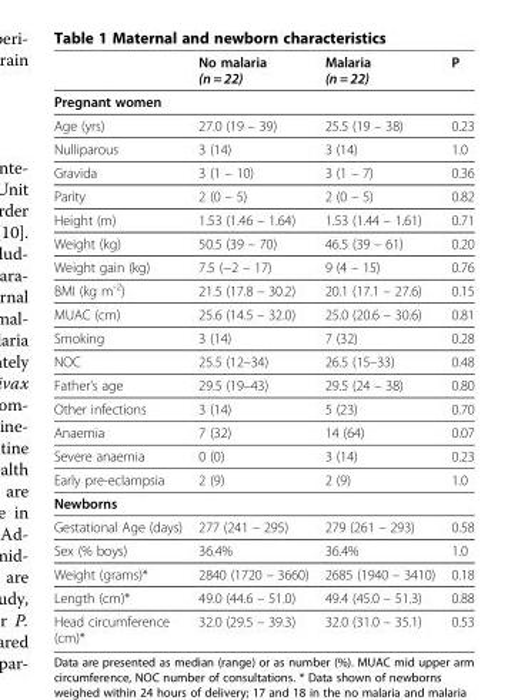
<table><thead><tr><td></td><td>No malaria (n = 22)</td><td>Malaria (n = 22)</td><td>P</td></tr></thead><tbody><tr><td colspan="4">Pregnant women</td></tr><tr><td>Age (yrs)</td><td>27.0 (19 – 39)</td><td>25.5 (19 – 38)</td><td>0.23</td></tr><tr><td>Nulliparous</td><td>3 (14)</td><td>3 (14)</td><td>1.0</td></tr><tr><td>Gravida</td><td>3 (1 – 10)</td><td>3 (1 – 7)</td><td>0.36</td></tr><tr><td>Parity</td><td>2 (0 – 5)</td><td>2 (0 – 5)</td><td>0.82</td></tr><tr><td>Height (m)</td><td>1.53 (1.46 – 1.64)</td><td>1.53 (1.44 – 1.61)</td><td>0.71</td></tr><tr><td>Weight (kg)</td><td>50.5 (39 – 70)</td><td>46.5 (39 – 61)</td><td>0.20</td></tr><tr><td>Weight gain (kg)</td><td>7.5 (−2 – 17)</td><td>9 (4 – 15)</td><td>0.76</td></tr><tr><td>BMI (kg m<sup>-2</sup>)</td><td>21.5 (17.8 – 30.2)</td><td>20.1 (17.1 – 27.6)</td><td>0.15</td></tr><tr><td>MUAC (cm)</td><td>25.6 (14.5 – 32.0)</td><td>25.0 (20.6 – 30.6)</td><td>0.81</td></tr><tr><td>Smoking</td><td>3 (14)</td><td>7 (32)</td><td>0.28</td></tr><tr><td>NOC</td><td>25.5 (12–34)</td><td>26.5 (15–33)</td><td>0.48</td></tr><tr><td>Father’s age</td><td>29.5 (19–43)</td><td>29.5 (24 – 38)</td><td>0.80</td></tr><tr><td>Other infections</td><td>3 (14)</td><td>5 (23)</td><td>0.70</td></tr><tr><td>Anaemia</td><td>7 (32)</td><td>14 (64)</td><td>0.07</td></tr><tr><td>Severe anaemia</td><td>0 (0)</td><td>3 (14)</td><td>0.23</td></tr><tr><td>Early pre-eclampsia</td><td>2 (9)</td><td>2 (9)</td><td>1.0</td></tr><tr><td colspan="4">Newborns</td></tr><tr><td>Gestational Age (days)</td><td>277 (241 – 295)</td><td>279 (261 – 293)</td><td>0.58</td></tr><tr><td>Sex (% boys)</td><td>36.4%</td><td>36.4%</td><td>1.0</td></tr><tr><td>Weight (grams)*</td><td>2840 (1720 – 3660)</td><td>2685 (1940 – 3410)</td><td>0.18</td></tr><tr><td>Length (cm)*</td><td>49.0 (44.6 – 51.0)</td><td>49.4 (45.0 – 51.3)</td><td>0.88</td></tr><tr><td>Head circumference (cm)*</td><td>32.0 (29.5 – 39.3)</td><td>32.0 (31.0 – 35.1)</td><td>0.53</td></tr></tbody></table>